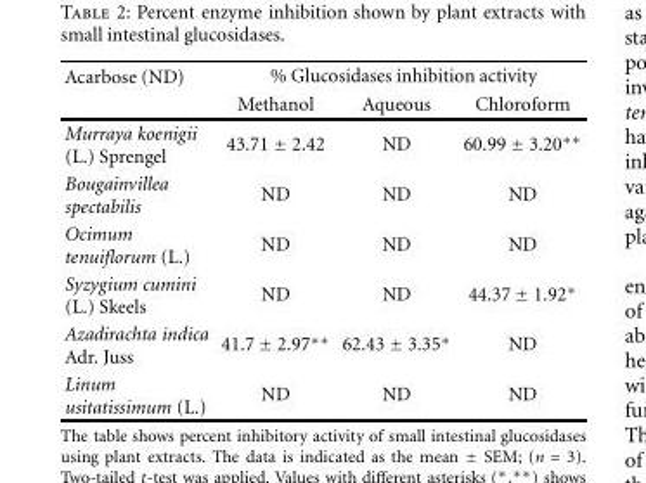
<table><thead><tr><td rowspan="2">Acarbose (ND)</td><td colspan="3">% Glucosidases inhibition activity</td></tr><tr><td>Methanol</td><td>Aqueous</td><td>Chloroform</td></tr></thead><tbody><tr><td>Murraya koenigii (L.) Sprengel</td><td>43.71 ± 2.42</td><td>ND</td><td>60.99 ± 3.20∗∗</td></tr><tr><td>Bougainvillea spectabilis</td><td>ND</td><td>ND</td><td>ND</td></tr><tr><td>Ocimum tenuiflorum (L.)</td><td>ND</td><td>ND</td><td>ND</td></tr><tr><td>Syzygium cumini (L.) Skeels</td><td>ND</td><td>ND</td><td>44.37 ± 1.92∗</td></tr><tr><td>Azadirachta indica Adr. Juss</td><td>41.7 ± 2.97∗∗</td><td>62.43 ± 3.35∗</td><td>ND</td></tr><tr><td>Linum usitatissimum (L.)</td><td>ND</td><td>ND</td><td>ND</td></tr></tbody></table>